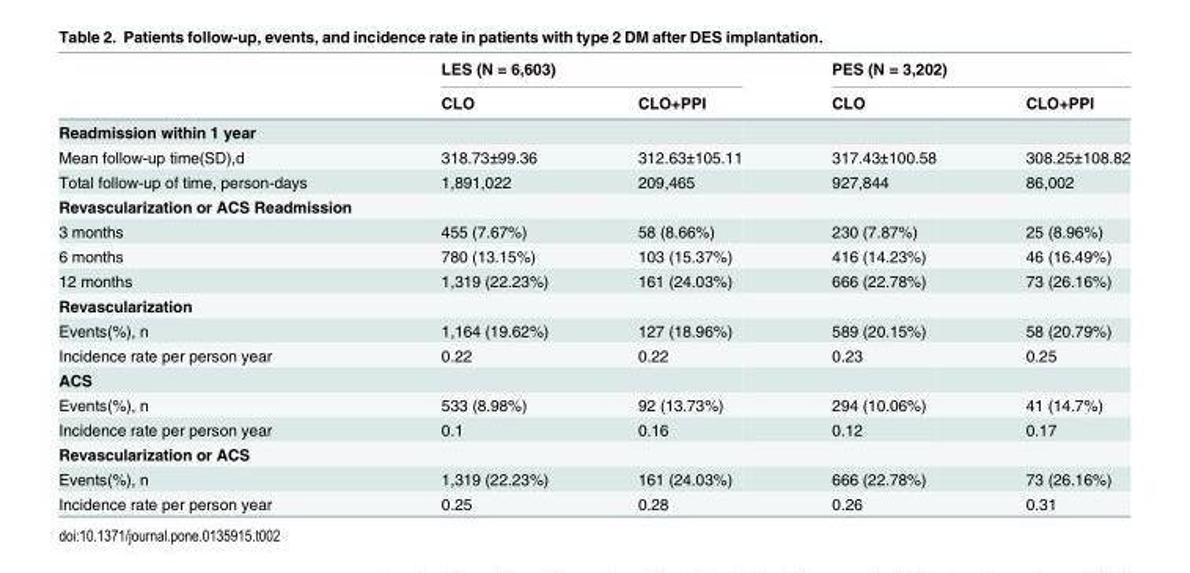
<table><thead><tr><td rowspan="2"></td><td colspan="2">LES (N = 6,603)</td><td colspan="2">PES (N = 3,202)</td></tr><tr><td>CLO</td><td>CLO+PPI</td><td>CLO</td><td>CLO+PPI</td></tr></thead><tbody><tr><td colspan="5">Readmission within 1 year</td></tr><tr><td>Mean follow-up time(SD),d</td><td>318.73±99.36</td><td>312.63±105.11</td><td>317.43±100.58</td><td>308.25±108.82</td></tr><tr><td>Total follow-up of time, person-days</td><td>1,891,022</td><td>209,465</td><td>927,844</td><td>86,002</td></tr><tr><td colspan="5">Revascularization or ACS Readmission</td></tr><tr><td>3 months</td><td>455 (7.67%)</td><td>58 (8.66%)</td><td>230 (7.87%)</td><td>25 (8.96%)</td></tr><tr><td>6 months</td><td>780 (13.15%)</td><td>103 (15.37%)</td><td>416 (14.23%)</td><td>46 (16.49%)</td></tr><tr><td>12 months</td><td>1,319 (22.23%)</td><td>161 (24.03%)</td><td>666 (22.78%)</td><td>73 (26.16%)</td></tr><tr><td colspan="5">Revascularization</td></tr><tr><td>Events(%), n</td><td>1,164 (19.62%)</td><td>127 (18.96%)</td><td>589 (20.15%)</td><td>58 (20.79%)</td></tr><tr><td>Incidence rate per person year</td><td>0.22</td><td>0.22</td><td>0.23</td><td>0.25</td></tr><tr><td colspan="5">ACS</td></tr><tr><td>Events(%), n</td><td>533 (8.98%)</td><td>92 (13.73%)</td><td>294 (10.06%)</td><td>41 (14.7%)</td></tr><tr><td>Incidence rate per person year</td><td>0.1</td><td>0.16</td><td>0.12</td><td>0.17</td></tr><tr><td colspan="5">Revascularization or ACS</td></tr><tr><td>Events(%), n</td><td>1,319 (22.23%)</td><td>161 (24.03%)</td><td>666 (22.78%)</td><td>73 (26.16%)</td></tr><tr><td>Incidence rate per person year</td><td>0.25</td><td>0.28</td><td>0.26</td><td>0.31</td></tr></tbody></table>